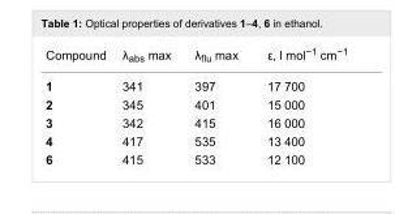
<table><tbody><tr><td>Compound</td><td>λ<sub>abs</sub> max</td><td>λ<sub>flu</sub> max</td><td>ε, l mol<sup>−1</sup> cm<sup>−1</sup></td></tr><tr><td>1</td><td>341</td><td>397</td><td>17 700</td></tr><tr><td>2</td><td>345</td><td>401</td><td>15 000</td></tr><tr><td>3</td><td>342</td><td>415</td><td>16 000</td></tr><tr><td>4</td><td>417</td><td>535</td><td>13 400</td></tr><tr><td>6</td><td>415</td><td>533</td><td>12 100</td></tr></tbody></table>